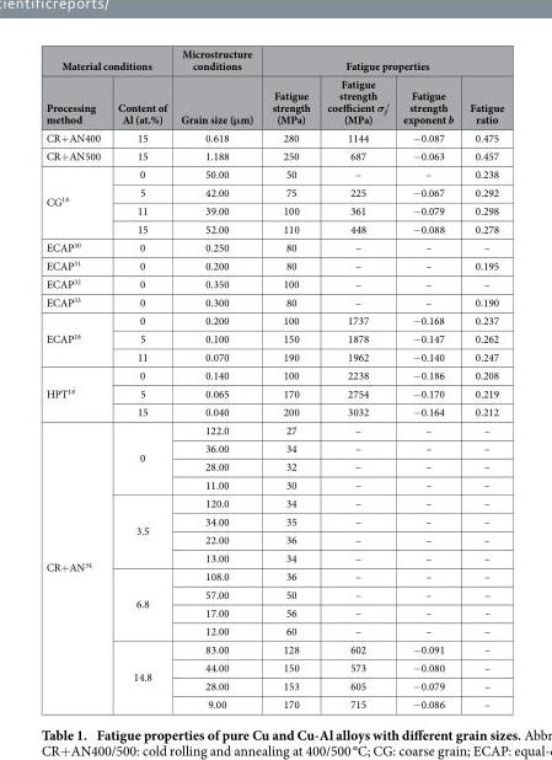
<table><thead><tr><td colspan="2">Material conditions</td><td rowspan="2">Microstructure conditions Grain size (μm)</td><td colspan="4">Fatigue properties</td></tr><tr><td>Processing method</td><td>Content of Al (at.%)</td><td>Fatigue strength (MPa)</td><td>Fatigue strength coefficient σ<sub>f</sub>′ (MPa)</td><td>Fatigue strength exponent b</td><td>Fatigue ratio</td></tr></thead><tbody><tr><td>CR+ AN400</td><td>15</td><td>0.618</td><td>280</td><td>1144</td><td>− 0.087</td><td>0.475</td></tr><tr><td>CR+ AN500</td><td>15</td><td>1.188</td><td>250</td><td>687</td><td>− 0.063</td><td>0.457</td></tr><tr><td rowspan="4">CG<sup>18</sup></td><td>0</td><td>50.00</td><td>50</td><td>–</td><td>–</td><td>0.238</td></tr><tr><td>5</td><td>42.00</td><td>75</td><td>225</td><td>− 0.067</td><td>0.292</td></tr><tr><td>11</td><td>39.00</td><td>100</td><td>361</td><td>− 0.079</td><td>0.298</td></tr><tr><td>15</td><td>52.00</td><td>110</td><td>448</td><td>− 0.088</td><td>0.278</td></tr><tr><td>ECAP<sup>30</sup></td><td>0</td><td>0.250</td><td>80</td><td>–</td><td>–</td><td>–</td></tr><tr><td>ECAP<sup>31</sup></td><td>0</td><td>0.200</td><td>80</td><td>–</td><td>–</td><td>0.195</td></tr><tr><td>ECAP<sup>32</sup></td><td>0</td><td>0.350</td><td>100</td><td>–</td><td>–</td><td>–</td></tr><tr><td>ECAP<sup>33</sup></td><td>0</td><td>0.300</td><td>80</td><td>–</td><td>–</td><td>0.190</td></tr><tr><td rowspan="3">ECAP<sup>18</sup></td><td>0</td><td>0.200</td><td>100</td><td>1737</td><td>− 0.168</td><td>0.237</td></tr><tr><td>5</td><td>0.100</td><td>150</td><td>1878</td><td>− 0.147</td><td>0.262</td></tr><tr><td>11</td><td>0.070</td><td>190</td><td>1962</td><td>− 0.140</td><td>0.247</td></tr><tr><td rowspan="3">HPT<sup>18</sup></td><td>0</td><td>0.140</td><td>100</td><td>2238</td><td>− 0.186</td><td>0.208</td></tr><tr><td>5</td><td>0.065</td><td>170</td><td>2754</td><td>− 0.170</td><td>0.219</td></tr><tr><td>15</td><td>0.040</td><td>200</td><td>3032</td><td>− 0.164</td><td>0.212</td></tr><tr><td rowspan="16">CR+ AN<sup>34</sup></td><td rowspan="4">0</td><td>122.0</td><td>27</td><td>–</td><td>–</td><td>–</td></tr><tr><td>36.00</td><td>34</td><td>–</td><td>–</td><td>–</td></tr><tr><td>28.00</td><td>32</td><td>–</td><td>–</td><td>–</td></tr><tr><td>11.00</td><td>30</td><td>–</td><td>–</td><td>–</td></tr><tr><td rowspan="4">3.5</td><td>120.0</td><td>34</td><td>–</td><td>–</td><td>–</td></tr><tr><td>34.00</td><td>35</td><td>–</td><td>–</td><td>–</td></tr><tr><td>22.00</td><td>36</td><td>–</td><td>–</td><td>–</td></tr><tr><td>13.00</td><td>34</td><td>–</td><td>–</td><td>–</td></tr><tr><td rowspan="4">6.8</td><td>108.0</td><td>36</td><td>–</td><td>–</td><td>–</td></tr><tr><td>57.00</td><td>50</td><td>–</td><td>–</td><td>–</td></tr><tr><td>17.00</td><td>56</td><td>–</td><td>–</td><td>–</td></tr><tr><td>12.00</td><td>60</td><td>–</td><td>–</td><td>–</td></tr><tr><td rowspan="4">14.8</td><td>83.00</td><td>128</td><td>602</td><td>− 0.091</td><td>–</td></tr><tr><td>44.00</td><td>150</td><td>573</td><td>− 0.080</td><td>–</td></tr><tr><td>28.00</td><td>153</td><td>605</td><td>− 0.079</td><td>–</td></tr><tr><td>9.00</td><td>170</td><td>715</td><td>− 0.086</td><td>–</td></tr></tbody></table>